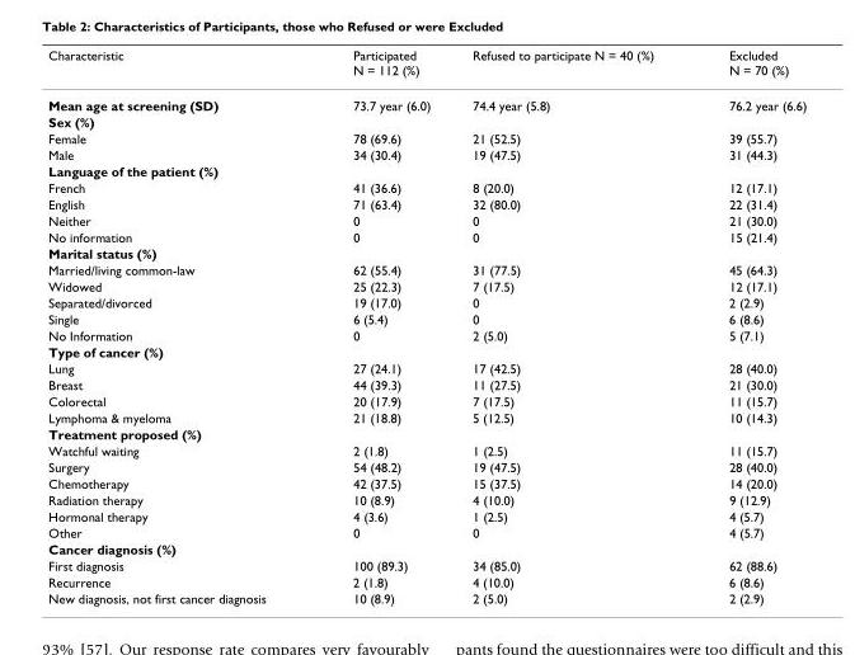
<table><thead><tr><td>Characteristic</td><td>Participated N = 112 (%)</td><td>Refused to participate N = 40 (%)</td><td>Excluded N = 70 (%)</td></tr></thead><tbody><tr><td>Mean age at screening (SD)</td><td>73.7 year (6.0)</td><td>74.4 year (5.8)</td><td>76.2 year (6.6)</td></tr><tr><td colspan="4">Sex (%)</td></tr><tr><td>Female</td><td>78 (69.6)</td><td>21 (52.5)</td><td>39 (55.7)</td></tr><tr><td>Male</td><td>34 (30.4)</td><td>19 (47.5)</td><td>31 (44.3)</td></tr><tr><td colspan="4">Language of the patient (%)</td></tr><tr><td>French</td><td>41 (36.6)</td><td>8 (20.0)</td><td>12 (17.1)</td></tr><tr><td>English</td><td>71 (63.4)</td><td>32 (80.0)</td><td>22 (31.4)</td></tr><tr><td>Neither</td><td>0</td><td>0</td><td>21 (30.0)</td></tr><tr><td>No information</td><td>0</td><td>0</td><td>15 (21.4)</td></tr><tr><td colspan="4">Marital status (%)</td></tr><tr><td>Married/living common-law</td><td>62 (55.4)</td><td>31 (77.5)</td><td>45 (64.3)</td></tr><tr><td>Widowed</td><td>25 (22.3)</td><td>7 (17.5)</td><td>12 (17.1)</td></tr><tr><td>Separated/divorced</td><td>19 (17.0)</td><td>0</td><td>2 (2.9)</td></tr><tr><td>Single</td><td>6 (5.4)</td><td>0</td><td>6 (8.6)</td></tr><tr><td>No Information</td><td>0</td><td>2 (5.0)</td><td>5 (7.1)</td></tr><tr><td colspan="4">Type of cancer (%)</td></tr><tr><td>Lung</td><td>27 (24.1)</td><td>17 (42.5)</td><td>28 (40.0)</td></tr><tr><td>Breast</td><td>44 (39.3)</td><td>11 (27.5)</td><td>21 (30.0)</td></tr><tr><td>Colorectal</td><td>20 (17.9)</td><td>7 (17.5)</td><td>11 (15.7)</td></tr><tr><td>Lymphoma &amp; myeloma</td><td>21 (18.8)</td><td>5 (12.5)</td><td>10 (14.3)</td></tr><tr><td colspan="4">Treatment proposed (%)</td></tr><tr><td>Watchful waiting</td><td>2 (1.8)</td><td>1 (2.5)</td><td>11 (15.7)</td></tr><tr><td>Surgery</td><td>54 (48.2)</td><td>19 (47.5)</td><td>28 (40.0)</td></tr><tr><td>Chemotherapy</td><td>42 (37.5)</td><td>15 (37.5)</td><td>14 (20.0)</td></tr><tr><td>Radiation therapy</td><td>10 (8.9)</td><td>4 (10.0)</td><td>9 (12.9)</td></tr><tr><td>Hormonal therapy</td><td>4 (3.6)</td><td>1 (2.5)</td><td>4 (5.7)</td></tr><tr><td>Other</td><td>0</td><td>0</td><td>4 (5.7)</td></tr><tr><td colspan="4">Cancer diagnosis (%)</td></tr><tr><td>First diagnosis</td><td>100 (89.3)</td><td>34 (85.0)</td><td>62 (88.6)</td></tr><tr><td>Recurrence</td><td>2 (1.8)</td><td>4 (10.0)</td><td>6 (8.6)</td></tr><tr><td>New diagnosis, not first cancer diagnosis</td><td>10 (8.9)</td><td>2 (5.0)</td><td>2 (2.9)</td></tr></tbody></table>